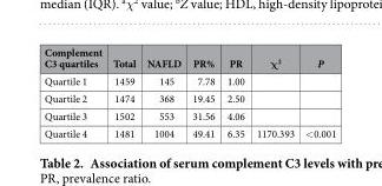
<table><thead><tr><td>Complement C3 quartiles</td><td>Total</td><td>NAFLD</td><td>PR%</td><td>PR</td><td>χ<sup>2</sup></td><td>P</td></tr></thead><tbody><tr><td>Quartile 1</td><td>1459</td><td>145</td><td>7.78</td><td>1.00</td><td></td><td></td></tr><tr><td>Quartile 2</td><td>1474</td><td>368</td><td>19.45</td><td>2.50</td><td></td><td></td></tr><tr><td>Quartile 3</td><td>1502</td><td>553</td><td>31.56</td><td>4.06</td><td></td><td></td></tr><tr><td>Quartile 4</td><td>1481</td><td>1004</td><td>49.41</td><td>6.35</td><td>1170.393</td><td>&lt; 0.001</td></tr></tbody></table>